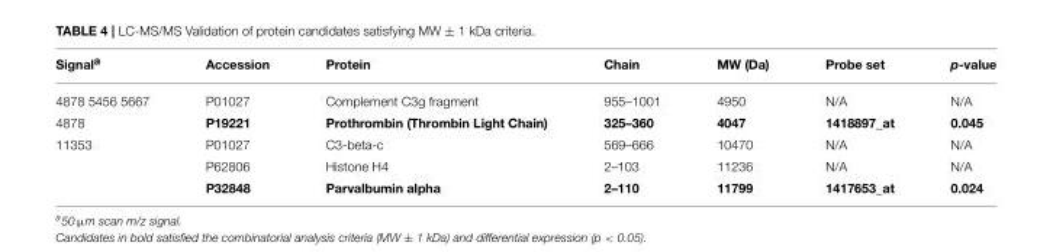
<table><thead><tr><td>Signal<sup>a</sup></td><td>Accession</td><td>Protein</td><td>Chain</td><td>MW (Da)</td><td>Probe set</td><td>p-value</td></tr></thead><tbody><tr><td>4878 5456 5667</td><td>P01027</td><td>Complement C3g fragment</td><td>955–1001</td><td>4950</td><td>N/A</td><td>N/A</td></tr><tr><td>4878</td><td>P19221</td><td>Prothrombin (Thrombin Light Chain)</td><td>325–360</td><td>4047</td><td>1418897_at</td><td>0.045</td></tr><tr><td rowspan="3">11353</td><td>P01027</td><td>C3-beta-c</td><td>569–666</td><td>10470</td><td>N/A</td><td>N/A</td></tr><tr><td>P62806</td><td>Histone H4</td><td>2–103</td><td>11236</td><td>N/A</td><td>N/A</td></tr><tr><td>P32848</td><td>Parvalbumin alpha</td><td>2–110</td><td>11799</td><td>1417653_at</td><td>0.024</td></tr></tbody></table>